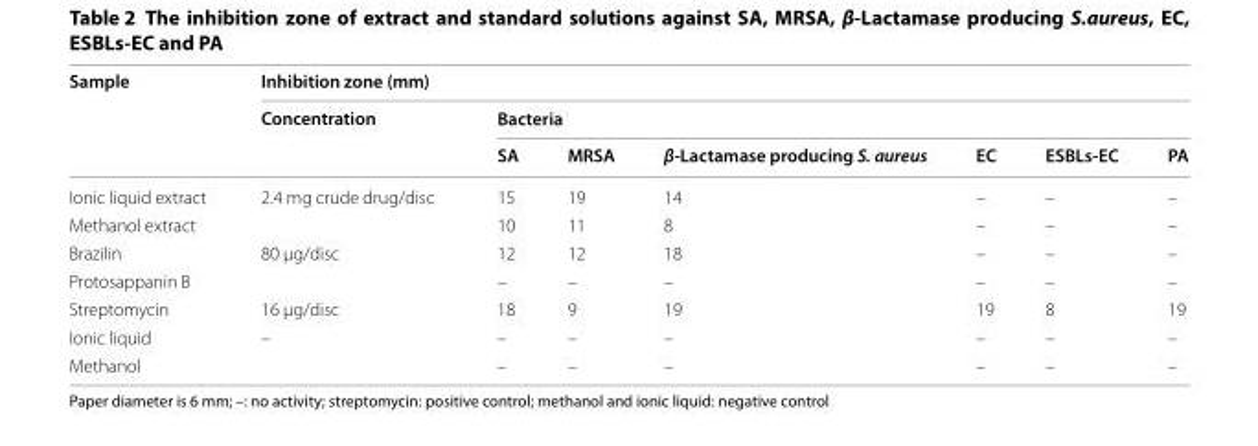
<table><thead><tr><td rowspan="3">Sample</td><td colspan="7">Inhibition zone (mm)</td></tr><tr><td rowspan="2">Concentration</td><td colspan="6">Bacteria</td></tr><tr><td>SA</td><td>MRSA</td><td>β-Lactamase producing S. aureus</td><td>EC</td><td>ESBLs-EC</td><td>PA</td></tr></thead><tbody><tr><td>Ionic liquid extract</td><td rowspan="2">2.4 mg crude drug/disc</td><td>15</td><td>19</td><td>14</td><td>–</td><td>–</td><td>–</td></tr><tr><td>Methanol extract</td><td>10</td><td>11</td><td>8</td><td>–</td><td>–</td><td>–</td></tr><tr><td>Brazilin</td><td rowspan="2">80 μg/disc</td><td>12</td><td>12</td><td>18</td><td>–</td><td>–</td><td>–</td></tr><tr><td>Protosappanin B</td><td>–</td><td>–</td><td>–</td><td>–</td><td>–</td><td>–</td></tr><tr><td>Streptomycin</td><td>16 μg/disc</td><td>18</td><td>9</td><td>19</td><td>19</td><td>8</td><td>19</td></tr><tr><td>Ionic liquid</td><td rowspan="2">–</td><td>–</td><td>–</td><td>–</td><td>–</td><td>–</td><td>–</td></tr><tr><td>Methanol</td><td>–</td><td>–</td><td>–</td><td>–</td><td>–</td><td>–</td></tr></tbody></table>